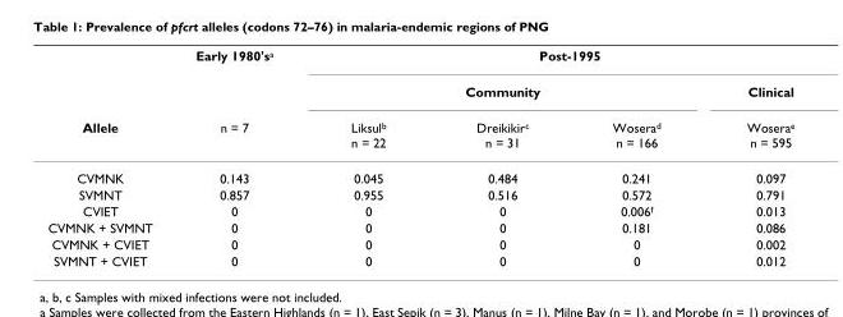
<table><thead><tr><td rowspan="3">Allele</td><td rowspan="3">Early 1980&#x27;s<sup>a</sup> n = 7</td><td colspan="4">Post-1995</td></tr><tr><td colspan="3">Community</td><td rowspan="2">Clinical Wosera<sup>e</sup> n = 595</td></tr><tr><td>Liksul<sup>b</sup> n = 22</td><td>Dreikikir<sup>c</sup> n = 31</td><td>Wosera<sup>d</sup> n = 166</td></tr></thead><tbody><tr><td>CVMNK</td><td>0.143</td><td>0.045</td><td>0.484</td><td>0.241</td><td>0.097</td></tr><tr><td>SVMNT</td><td>0.857</td><td>0.955</td><td>0.516</td><td>0.572</td><td>0.791</td></tr><tr><td>CVIET</td><td>0</td><td>0</td><td>0</td><td>0.006<sup>f</sup></td><td>0.013</td></tr><tr><td>CVMNK + SVMNT</td><td>0</td><td>0</td><td>0</td><td>0.181</td><td>0.086</td></tr><tr><td>CVMNK + CVIET</td><td>0</td><td>0</td><td>0</td><td>0</td><td>0.002</td></tr><tr><td>SVMNT + CVIET</td><td>0</td><td>0</td><td>0</td><td>0</td><td>0.012</td></tr></tbody></table>